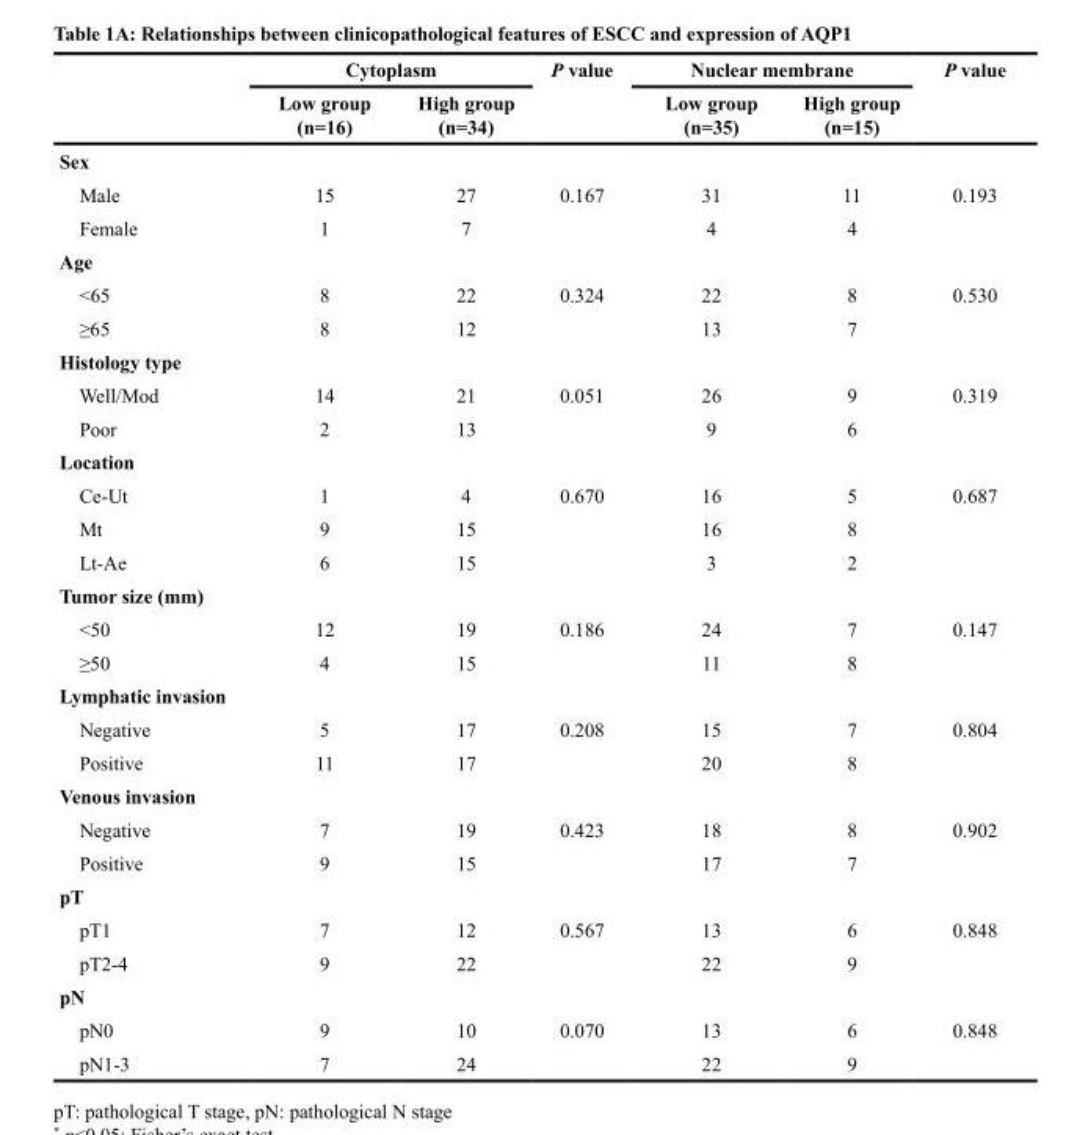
<table><thead><tr><td rowspan="2"></td><td colspan="2">Cytoplasm</td><td rowspan="2">P value</td><td colspan="2">Nuclear membrane</td><td rowspan="2">P value</td></tr><tr><td>Low group (n=16)</td><td>High group (n=34)</td><td>Low group (n=35)</td><td>High group (n=15)</td></tr></thead><tbody><tr><td colspan="7">Sex</td></tr><tr><td>Male</td><td>15</td><td>27</td><td rowspan="2">0.167</td><td>31</td><td>11</td><td rowspan="2">0.193</td></tr><tr><td>Female</td><td>1</td><td>7</td><td>4</td><td>4</td></tr><tr><td colspan="7">Age</td></tr><tr><td>&lt;65</td><td>8</td><td>22</td><td rowspan="2">0.324</td><td>22</td><td>8</td><td rowspan="2">0.530</td></tr><tr><td>≥65</td><td>8</td><td>12</td><td>13</td><td>7</td></tr><tr><td colspan="7">Histology type</td></tr><tr><td>Well/Mod</td><td>14</td><td>21</td><td rowspan="2">0.051</td><td>26</td><td>9</td><td rowspan="2">0.319</td></tr><tr><td>Poor</td><td>2</td><td>13</td><td>9</td><td>6</td></tr><tr><td colspan="7">Location</td></tr><tr><td>Ce-Ut</td><td>1</td><td>4</td><td rowspan="3">0.670</td><td>16</td><td>5</td><td rowspan="3">0.687</td></tr><tr><td>Mt</td><td>9</td><td>15</td><td>16</td><td>8</td></tr><tr><td>Lt-Ae</td><td>6</td><td>15</td><td>3</td><td>2</td></tr><tr><td colspan="7">Tumor size (mm)</td></tr><tr><td>&lt;50</td><td>12</td><td>19</td><td rowspan="2">0.186</td><td>24</td><td>7</td><td rowspan="2">0.147</td></tr><tr><td>≥50</td><td>4</td><td>15</td><td>11</td><td>8</td></tr><tr><td colspan="7">Lymphatic invasion</td></tr><tr><td>Negative</td><td>5</td><td>17</td><td rowspan="2">0.208</td><td>15</td><td>7</td><td rowspan="2">0.804</td></tr><tr><td>Positive</td><td>11</td><td>17</td><td>20</td><td>8</td></tr><tr><td colspan="7">Venous invasion</td></tr><tr><td>Negative</td><td>7</td><td>19</td><td rowspan="2">0.423</td><td>18</td><td>8</td><td rowspan="2">0.902</td></tr><tr><td>Positive</td><td>9</td><td>15</td><td>17</td><td>7</td></tr><tr><td colspan="7">pT</td></tr><tr><td>pT1</td><td>7</td><td>12</td><td rowspan="2">0.567</td><td>13</td><td>6</td><td rowspan="2">0.848</td></tr><tr><td>pT2-4</td><td>9</td><td>22</td><td>22</td><td>9</td></tr><tr><td colspan="7">pN</td></tr><tr><td>pN0</td><td>9</td><td>10</td><td rowspan="2">0.070</td><td>13</td><td>6</td><td rowspan="2">0.848</td></tr><tr><td>pN1-3</td><td>7</td><td>24</td><td>22</td><td>9</td></tr></tbody></table>